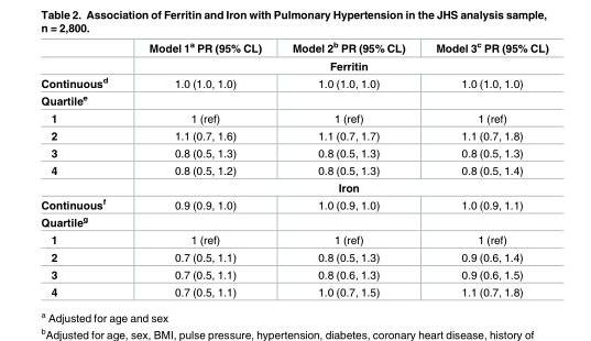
<table><thead><tr><td></td><td>Model 1<sup>a</sup> PR (95% CL)</td><td>Model 2<sup>b</sup> PR (95% CL)</td><td>Model 3<sup>c</sup> PR (95% CL)</td></tr></thead><tbody><tr><td></td><td colspan="3">Ferritin</td></tr><tr><td>Continuous<sup>d</sup></td><td>1.0 (1.0, 1.0)</td><td>1.0 (1.0, 1.0)</td><td>1.0 (1.0, 1.0)</td></tr><tr><td colspan="4">Quartile<sup>e</sup></td></tr><tr><td>1</td><td>1 (ref)</td><td>1 (ref)</td><td>1 (ref)</td></tr><tr><td>2</td><td>1.1 (0.7, 1.6)</td><td>1.1 (0.7, 1.7)</td><td>1.1 (0.7, 1.8)</td></tr><tr><td>3</td><td>0.8 (0.5, 1.3)</td><td>0.8 (0.5, 1.3)</td><td>0.8 (0.5, 1.3)</td></tr><tr><td rowspan="2">4</td><td>0.8 (0.5, 1.2)</td><td>0.8 (0.5, 1.3)</td><td>0.8 (0.5, 1.4)</td></tr><tr><td colspan="3">Iron</td></tr><tr><td>Continuous<sup>f</sup></td><td>0.9 (0.9, 1.0)</td><td>1.0 (0.9, 1.0)</td><td>1.0 (0.9, 1.1)</td></tr><tr><td colspan="4">Quartile<sup>g</sup></td></tr><tr><td>1</td><td>1 (ref)</td><td>1 (ref)</td><td>1 (ref)</td></tr><tr><td>2</td><td>0.7 (0.5, 1.1)</td><td>0.8 (0.5, 1.3)</td><td>0.9 (0.6, 1.4)</td></tr><tr><td>3</td><td>0.7 (0.5, 1.1)</td><td>0.8 (0.6, 1.3)</td><td>0.9 (0.6, 1.5)</td></tr><tr><td>4</td><td>0.7 (0.5, 1.1)</td><td>1.0 (0.7, 1.5)</td><td>1.1 (0.7, 1.8)</td></tr></tbody></table>